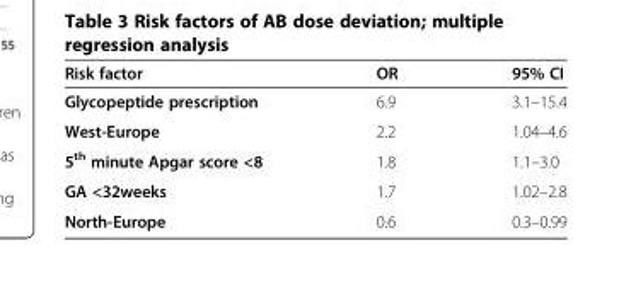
<table><thead><tr><td>Risk factor</td><td>OR</td><td>95% CI</td></tr></thead><tbody><tr><td>Glycopeptide prescription</td><td>6.9</td><td>3.1–15.4</td></tr><tr><td>West-Europe</td><td>2.2</td><td>1.04–4.6</td></tr><tr><td>5<sup>th</sup> minute Apgar score &lt;8</td><td>1.8</td><td>1.1–3.0</td></tr><tr><td>GA &lt;32weeks</td><td>1.7</td><td>1.02–2.8</td></tr><tr><td>North-Europe</td><td>0.6</td><td>0.3–0.99</td></tr></tbody></table>